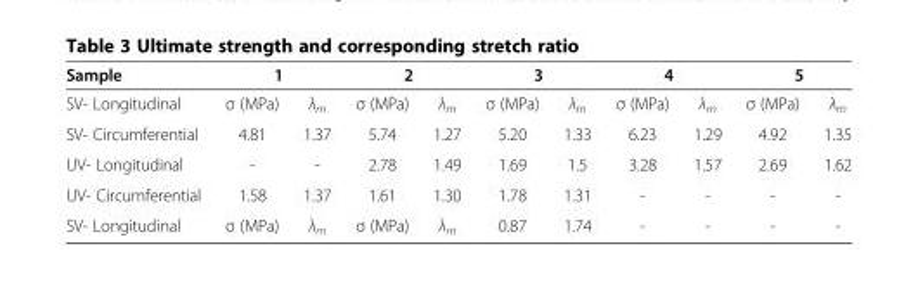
<table><thead><tr><td rowspan="2">Sample SV- Longitudinal</td><td colspan="2">1</td><td colspan="2">2</td><td colspan="2">3</td><td colspan="2">4</td><td colspan="2">5</td></tr><tr><td>σ (MPa)</td><td>λ<sub>m</sub></td><td>σ (MPa)</td><td>λ<sub>m</sub></td><td>σ (MPa)</td><td>λ<sub>m</sub></td><td>σ (MPa)</td><td>λ<sub>m</sub></td><td>σ (MPa)</td><td>λ<sub>m</sub></td></tr></thead><tbody><tr><td>SV- Circumferential</td><td>4.81</td><td>1.37</td><td>5.74</td><td>1.27</td><td>5.20</td><td>1.33</td><td>6.23</td><td>1.29</td><td>4.92</td><td>1.35</td></tr><tr><td>UV- Longitudinal</td><td>-</td><td>-</td><td>2.78</td><td>1.49</td><td>1.69</td><td>1.5</td><td>3.28</td><td>1.57</td><td>2.69</td><td>1.62</td></tr><tr><td>UV- Circumferential</td><td>1.58</td><td>1.37</td><td>1.61</td><td>1.30</td><td>1.78</td><td>1.31</td><td>-</td><td>-</td><td>-</td><td>-</td></tr><tr><td>SV- Longitudinal</td><td>σ (MPa)</td><td>λ<sub>m</sub></td><td>σ (MPa)</td><td>λ<sub>m</sub></td><td>0.87</td><td>1.74</td><td>-</td><td>-</td><td>-</td><td>-</td></tr></tbody></table>